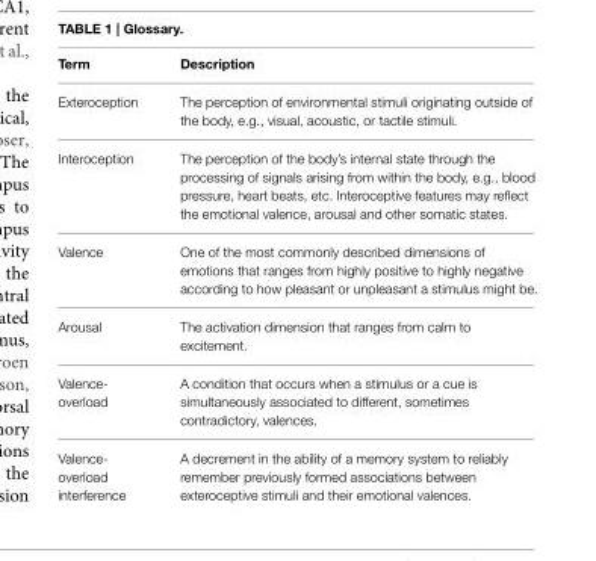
<table><thead><tr><td>Term</td><td>Description</td></tr></thead><tbody><tr><td>Exteroception</td><td>The perception of environmental stimuli originating outside of the body, e.g., visual, acoustic, or tactile stimuli.</td></tr><tr><td>Interoception</td><td>The perception of the body’s internal state through the processing of signals arising from within the body, e.g., blood pressure, heart beats, etc. Interoceptive features may reflect the emotional valence, arousal and other somatic states.</td></tr><tr><td>Valence</td><td>One of the most commonly described dimensions of emotions that ranges from highly positive to highly negative according to how pleasant or unpleasant a stimulus might be.</td></tr><tr><td>Arousal</td><td>The activation dimension that ranges from calm to excitement.</td></tr><tr><td>Valence- overload</td><td>A condition that occurs when a stimulus or a cue is simultaneously associated to different, sometimes contradictory, valences.</td></tr><tr><td>Valence- overload interference</td><td>A decrement in the ability of a memory system to reliably remember previously formed associations between exteroceptive stimuli and their emotional valences.</td></tr></tbody></table>